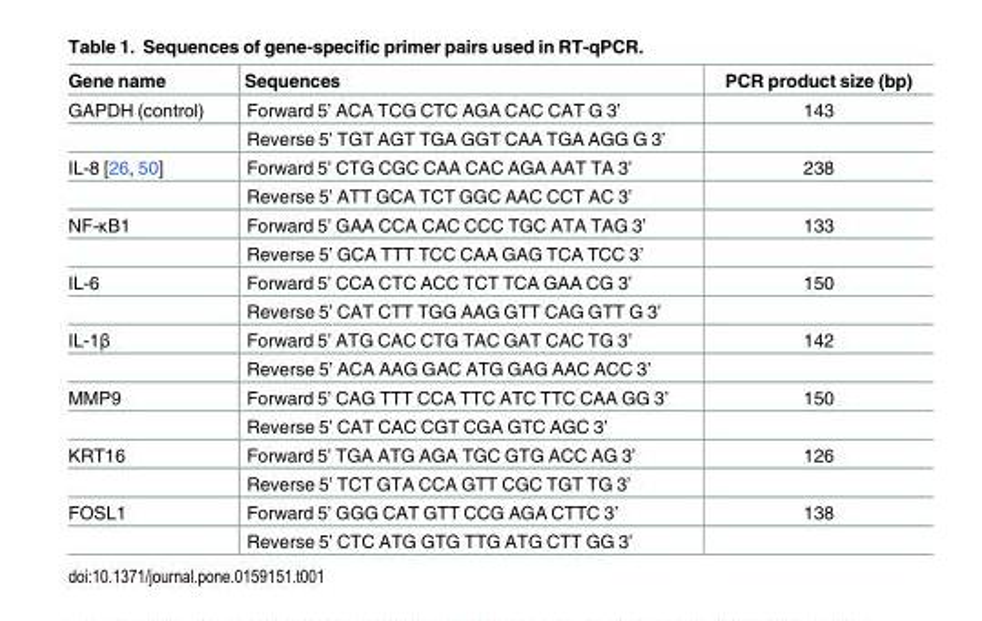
<table><thead><tr><td>Gene name</td><td>Sequences</td><td>PCR product size (bp)</td></tr></thead><tbody><tr><td rowspan="2">GAPDH (control)</td><td>Forward 5’ ACA TCG CTC AGA CAC CAT G 3’</td><td>143</td></tr><tr><td>Reverse 5’ TGT AGT TGA GGT CAA TGA AGG G 3’</td><td></td></tr><tr><td rowspan="2">IL-8 [26, 50]</td><td>Forward 5’ CTG CGC CAA CAC AGA AAT TA 3’</td><td>238</td></tr><tr><td>Reverse 5’ ATT GCA TCT GGC AAC CCT AC 3’</td><td></td></tr><tr><td rowspan="2">NF-κB1</td><td>Forward 5’ GAA CCA CAC CCC TGC ATA TAG 3’</td><td>133</td></tr><tr><td>Reverse 5’ GCA TTT TCC CAA GAG TCA TCC 3’</td><td></td></tr><tr><td rowspan="2">IL-6</td><td>Forward 5’ CCA CTC ACC TCT TCA GAA CG 3’</td><td>150</td></tr><tr><td>Reverse 5’ CAT CTT TGG AAG GTT CAG GTT G 3’</td><td></td></tr><tr><td rowspan="2">IL-1β</td><td>Forward 5’ ATG CAC CTG TAC GAT CAC TG 3’</td><td>142</td></tr><tr><td>Reverse 5’ ACA AAG GAC ATG GAG AAC ACC 3’</td><td></td></tr><tr><td rowspan="2">MMP9</td><td>Forward 5’ CAG TTT CCA TTC ATC TTC CAA GG 3’</td><td>150</td></tr><tr><td>Reverse 5’ CAT CAC CGT CGA GTC AGC 3’</td><td></td></tr><tr><td rowspan="2">KRT16</td><td>Forward 5’ TGA ATG AGA TGC GTG ACC AG 3’</td><td>126</td></tr><tr><td>Reverse 5’ TCT GTA CCA GTT CGC TGT TG 3’</td><td></td></tr><tr><td rowspan="2">FOSL1</td><td>Forward 5’ GGG CAT GTT CCG AGA CTTC 3’</td><td>138</td></tr><tr><td>Reverse 5’ CTC ATG GTG TTG ATG CTT GG 3’</td><td></td></tr></tbody></table>